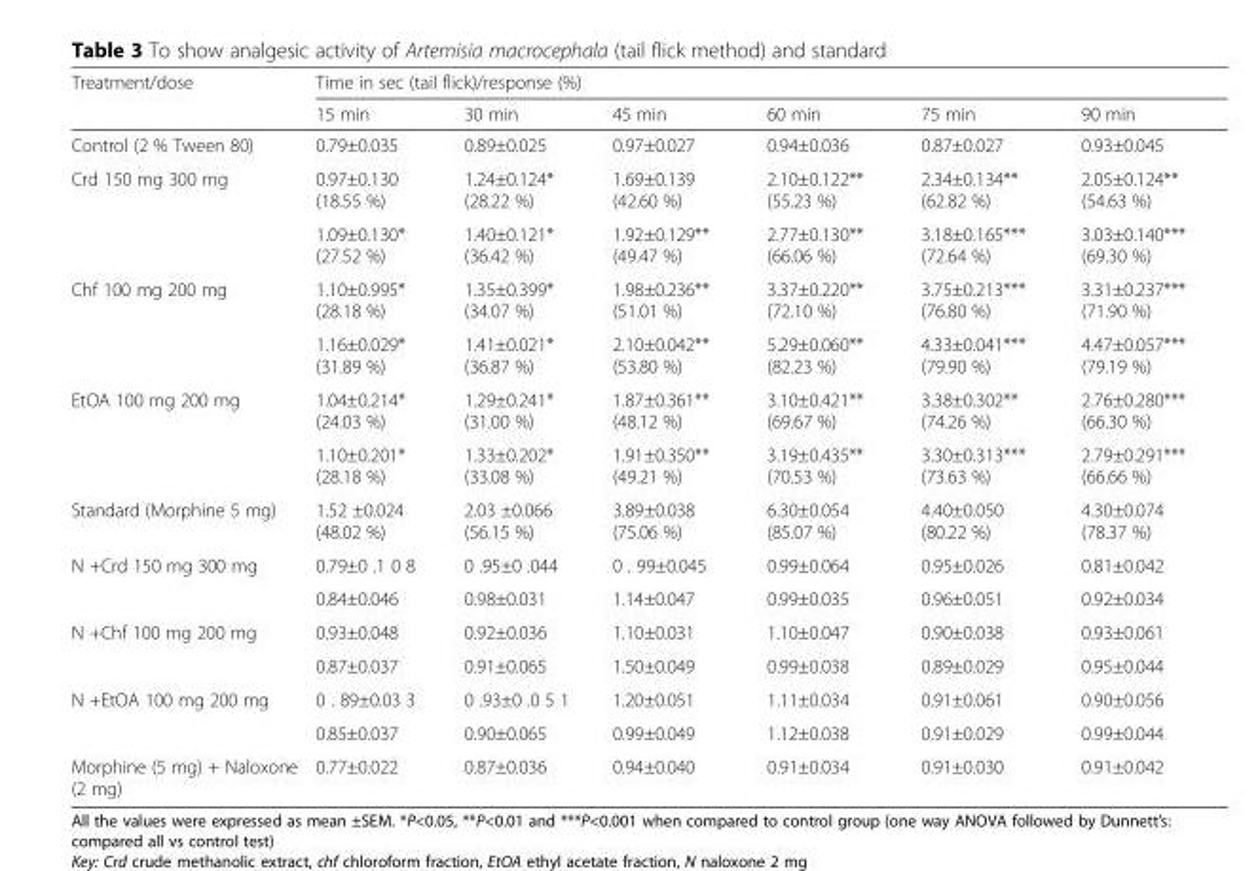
<table><thead><tr><td rowspan="2">Treatment/dose</td><td colspan="6">Time in sec (tail flick)/response (%)</td></tr><tr><td>15 min</td><td>30 min</td><td>45 min</td><td>60 min</td><td>75 min</td><td>90 min</td></tr></thead><tbody><tr><td>Control (2 % Tween 80)</td><td>0.79±0.035</td><td>0.89±0.025</td><td>0.97±0.027</td><td>0.94±0.036</td><td>0.87±0.027</td><td>0.93±0.045</td></tr><tr><td rowspan="2">Crd 150 mg 300 mg</td><td>0.97±0.130 (18.55 %)</td><td>1.24±0.124* (28.22 %)</td><td>1.69±0.139 (42.60 %)</td><td>2.10±0.122** (55.23 %)</td><td>2.34±0.134** (62.82 %)</td><td>2.05±0.124** (54.63 %)</td></tr><tr><td>1.09±0.130* (27.52 %)</td><td>1.40±0.121* (36.42 %)</td><td>1.92±0.129** (49.47 %)</td><td>2.77±0.130** (66.06 %)</td><td>3.18±0.165*** (72.64 %)</td><td>3.03±0.140*** (69.30 %)</td></tr><tr><td rowspan="2">Chf 100 mg 200 mg</td><td>1.10±0.995* (28.18 %)</td><td>1.35±0.399* (34.07 %)</td><td>1.98±0.236** (51.01 %)</td><td>3.37±0.220** (72.10 %)</td><td>3.75±0.213*** (76.80 %)</td><td>3.31±0.237*** (71.90 %)</td></tr><tr><td>1.16±0.029* (31.89 %)</td><td>1.41±0.021* (36.87 %)</td><td>2.10±0.042** (53.80 %)</td><td>5.29±0.060** (82.23 %)</td><td>4.33±0.041*** (79.90 %)</td><td>4.47±0.057*** (79.19 %)</td></tr><tr><td rowspan="2">EtOA 100 mg 200 mg</td><td>1.04±0.214* (24.03 %)</td><td>1.29±0.241* (31.00 %)</td><td>1.87±0.361** (48.12 %)</td><td>3.10±0.421** (69.67 %)</td><td>3.38±0.302** (74.26 %)</td><td>2.76±0.280*** (66.30 %)</td></tr><tr><td>1.10±0.201* (28.18 %)</td><td>1.33±0.202* (33.08 %)</td><td>1.91±0.350** (49.21 %)</td><td>3.19±0.435** (70.53 %)</td><td>3.30±0.313*** (73.63 %)</td><td>2.79±0.291*** (66.66 %)</td></tr><tr><td>Standard (Morphine 5 mg)</td><td>1.52 ±0.024 (48.02 %)</td><td>2.03 ±0.066 (56.15 %)</td><td>3.89±0.038 (75.06 %)</td><td>6.30±0.054 (85.07 %)</td><td>4.40±0.050 (80.22 %)</td><td>4.30±0.074 (78.37 %)</td></tr><tr><td rowspan="2">N +Crd 150 mg 300 mg</td><td>0.79±0 .1 0 8</td><td>0 .95±0 .044</td><td>0 . 99±0.045</td><td>0.99±0.064</td><td>0.95±0.026</td><td>0.81±0.042</td></tr><tr><td>0.84±0.046</td><td>0.98±0.031</td><td>1.14±0.047</td><td>0.99±0.035</td><td>0.96±0.051</td><td>0.92±0.034</td></tr><tr><td rowspan="2">N +Chf 100 mg 200 mg</td><td>0.93±0.048</td><td>0.92±0.036</td><td>1.10±0.031</td><td>1.10±0.047</td><td>0.90±0.038</td><td>0.93±0.061</td></tr><tr><td>0.87±0.037</td><td>0.91±0.065</td><td>1.50±0.049</td><td>0.99±0.038</td><td>0.89±0.029</td><td>0.95±0.044</td></tr><tr><td rowspan="2">N +EtOA 100 mg 200 mg</td><td>0 . 89±0.03 3</td><td>0 .93±0 .0 5 1</td><td>1.20±0.051</td><td>1.11±0.034</td><td>0.91±0.061</td><td>0.90±0.056</td></tr><tr><td>0.85±0.037</td><td>0.90±0.065</td><td>0.99±0.049</td><td>1.12±0.038</td><td>0.91±0.029</td><td>0.99±0.044</td></tr><tr><td>Morphine (5 mg) + Naloxone (2 mg)</td><td>0.77±0.022</td><td>0.87±0.036</td><td>0.94±0.040</td><td>0.91±0.034</td><td>0.91±0.030</td><td>0.91±0.042</td></tr></tbody></table>